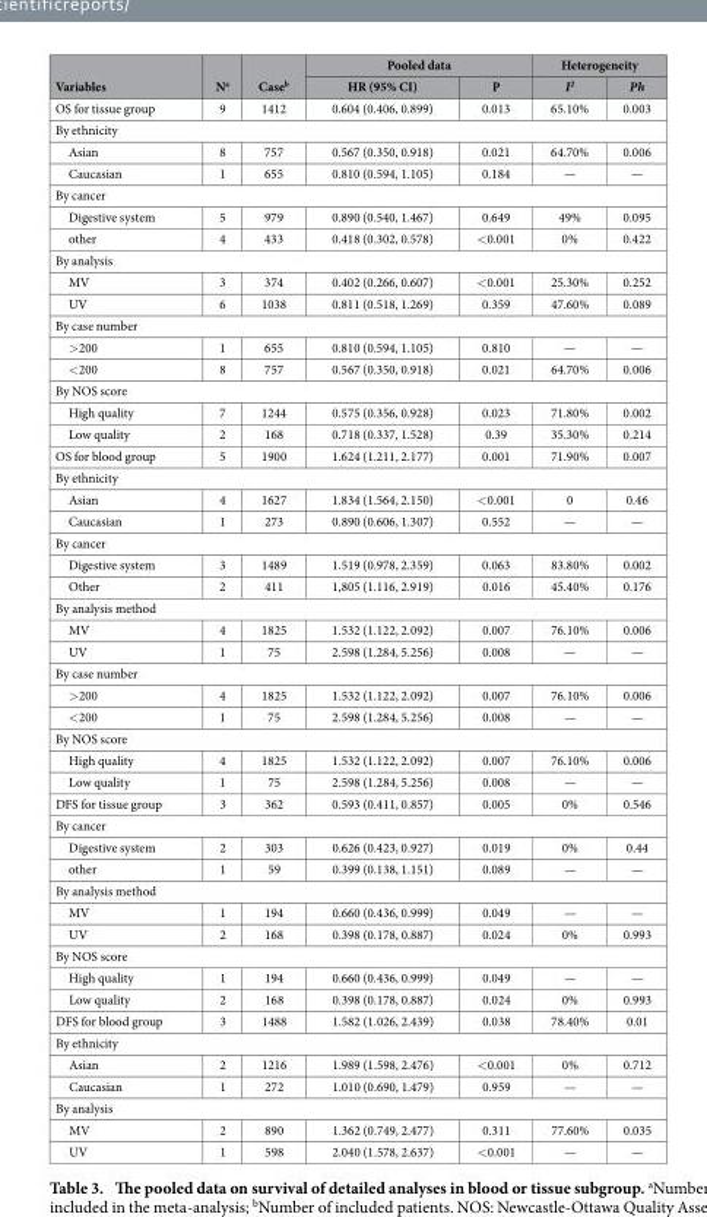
<table><thead><tr><td rowspan="2">Variables</td><td rowspan="2">N<sup>a</sup></td><td rowspan="2">Case<sup>b</sup></td><td colspan="2">Pooled data</td><td colspan="2">Heterogeneity</td></tr><tr><td>HR (95% CI)</td><td>P</td><td>I<sup>2</sup></td><td>Ph</td></tr></thead><tbody><tr><td>OS for tissue group</td><td>9</td><td>1412</td><td>0.604 (0.406, 0.899)</td><td>0.013</td><td>65.10%</td><td>0.003</td></tr><tr><td colspan="7">By ethnicity</td></tr><tr><td>Asian</td><td>8</td><td>757</td><td>0.567 (0.350, 0.918)</td><td>0.021</td><td>64.70%</td><td>0.006</td></tr><tr><td>Caucasian</td><td>1</td><td>655</td><td>0.810 (0.594, 1.105)</td><td>0.184</td><td>—</td><td>—</td></tr><tr><td colspan="7">By cancer</td></tr><tr><td>Digestive system</td><td>5</td><td>979</td><td>0.890 (0.540, 1.467)</td><td>0.649</td><td>49%</td><td>0.095</td></tr><tr><td>other</td><td>4</td><td>433</td><td>0.418 (0.302, 0.578)</td><td>&lt; 0.001</td><td>0%</td><td>0.422</td></tr><tr><td colspan="7">By analysis</td></tr><tr><td>MV</td><td>3</td><td>374</td><td>0.402 (0.266, 0.607)</td><td>&lt; 0.001</td><td>25.30%</td><td>0.252</td></tr><tr><td>UV</td><td>6</td><td>1038</td><td>0.811 (0.518, 1.269)</td><td>0.359</td><td>47.60%</td><td>0.089</td></tr><tr><td colspan="7">By case number</td></tr><tr><td>&gt; 200</td><td>1</td><td>655</td><td>0.810 (0.594, 1.105)</td><td>0.810</td><td>—</td><td>—</td></tr><tr><td>&lt; 200</td><td>8</td><td>757</td><td>0.567 (0.350, 0.918)</td><td>0.021</td><td>64.70%</td><td>0.006</td></tr><tr><td colspan="7">By NOS score</td></tr><tr><td>High quality</td><td>7</td><td>1244</td><td>0.575 (0.356, 0.928)</td><td>0.023</td><td>71.80%</td><td>0.002</td></tr><tr><td>Low quality</td><td>2</td><td>168</td><td>0.718 (0.337, 1.528)</td><td>0.39</td><td>35.30%</td><td>0.214</td></tr><tr><td>OS for blood group</td><td>5</td><td>1900</td><td>1.624 (1.211, 2.177)</td><td>0.001</td><td>71.90%</td><td>0.007</td></tr><tr><td colspan="7">By ethnicity</td></tr><tr><td>Asian</td><td>4</td><td>1627</td><td>1.834 (1.564, 2.150)</td><td>&lt; 0.001</td><td>0</td><td>0.46</td></tr><tr><td>Caucasian</td><td>1</td><td>273</td><td>0.890 (0.606, 1.307)</td><td>0.552</td><td>—</td><td>—</td></tr><tr><td colspan="7">By cancer</td></tr><tr><td>Digestive system</td><td>3</td><td>1489</td><td>1.519 (0.978, 2.359)</td><td>0.063</td><td>83.80%</td><td>0.002</td></tr><tr><td>Other</td><td>2</td><td>411</td><td>1,805 (1.116, 2.919)</td><td>0.016</td><td>45.40%</td><td>0.176</td></tr><tr><td colspan="7">By analysis method</td></tr><tr><td>MV</td><td>4</td><td>1825</td><td>1.532 (1.122, 2.092)</td><td>0.007</td><td>76.10%</td><td>0.006</td></tr><tr><td>UV</td><td>1</td><td>75</td><td>2.598 (1.284, 5.256)</td><td>0.008</td><td>—</td><td>—</td></tr><tr><td colspan="7">By case number</td></tr><tr><td>&gt; 200</td><td>4</td><td>1825</td><td>1.532 (1.122, 2.092)</td><td>0.007</td><td>76.10%</td><td>0.006</td></tr><tr><td>&lt; 200</td><td>1</td><td>75</td><td>2.598 (1.284, 5.256)</td><td>0.008</td><td>—</td><td>—</td></tr><tr><td colspan="7">By NOS score</td></tr><tr><td>High quality</td><td>4</td><td>1825</td><td>1.532 (1.122, 2.092)</td><td>0.007</td><td>76.10%</td><td>0.006</td></tr><tr><td>Low quality</td><td>1</td><td>75</td><td>2.598 (1.284, 5.256)</td><td>0.008</td><td>—</td><td>—</td></tr><tr><td>DFS for tissue group</td><td>3</td><td>362</td><td>0.593 (0.411, 0.857)</td><td>0.005</td><td>0%</td><td>0.546</td></tr><tr><td colspan="7">By cancer</td></tr><tr><td>Digestive system</td><td>2</td><td>303</td><td>0.626 (0.423, 0.927)</td><td>0.019</td><td>0%</td><td>0.44</td></tr><tr><td>other</td><td>1</td><td>59</td><td>0.399 (0.138, 1.151)</td><td>0.089</td><td>—</td><td>—</td></tr><tr><td colspan="7">By analysis method</td></tr><tr><td>MV</td><td>1</td><td>194</td><td>0.660 (0.436, 0.999)</td><td>0.049</td><td>—</td><td>—</td></tr><tr><td>UV</td><td>2</td><td>168</td><td>0.398 (0.178, 0.887)</td><td>0.024</td><td>0%</td><td>0.993</td></tr><tr><td colspan="7">By NOS score</td></tr><tr><td>High quality</td><td>1</td><td>194</td><td>0.660 (0.436, 0.999)</td><td>0.049</td><td>—</td><td>—</td></tr><tr><td>Low quality</td><td>2</td><td>168</td><td>0.398 (0.178, 0.887)</td><td>0.024</td><td>0%</td><td>0.993</td></tr><tr><td>DFS for blood group</td><td>3</td><td>1488</td><td>1.582 (1.026, 2.439)</td><td>0.038</td><td>78.40%</td><td>0.01</td></tr><tr><td colspan="7">By ethnicity</td></tr><tr><td>Asian</td><td>2</td><td>1216</td><td>1.989 (1.598, 2.476)</td><td>&lt; 0.001</td><td>0%</td><td>0.712</td></tr><tr><td>Caucasian</td><td>1</td><td>272</td><td>1.010 (0.690, 1.479)</td><td>0.959</td><td>—</td><td>—</td></tr><tr><td colspan="7">By analysis</td></tr><tr><td>MV</td><td>2</td><td>890</td><td>1.362 (0.749, 2.477)</td><td>0.311</td><td>77.60%</td><td>0.035</td></tr><tr><td>UV</td><td>1</td><td>598</td><td>2.040 (1.578, 2.637)</td><td>&lt; 0.001</td><td>—</td><td>—</td></tr></tbody></table>